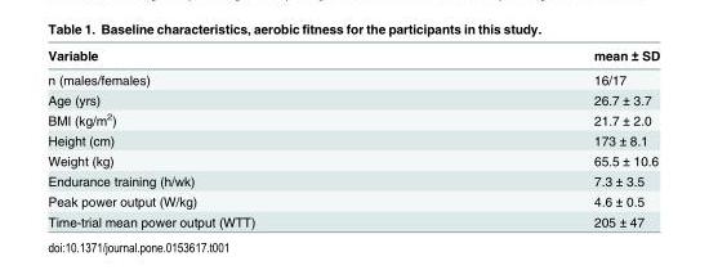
<table><thead><tr><td>Variable</td><td>mean ± SD</td></tr></thead><tbody><tr><td>n (males/females)</td><td>16/17</td></tr><tr><td>Age (yrs)</td><td>26.7 ± 3.7</td></tr><tr><td>BMI (kg/m<sup>2</sup>)</td><td>21.7 ± 2.0</td></tr><tr><td>Height (cm)</td><td>173 ± 8.1</td></tr><tr><td>Weight (kg)</td><td>65.5 ± 10.6</td></tr><tr><td>Endurance training (h/wk)</td><td>7.3 ± 3.5</td></tr><tr><td>Peak power output (W/kg)</td><td>4.6 ± 0.5</td></tr><tr><td>Time-trial mean power output (WTT)</td><td>205 ± 47</td></tr></tbody></table>